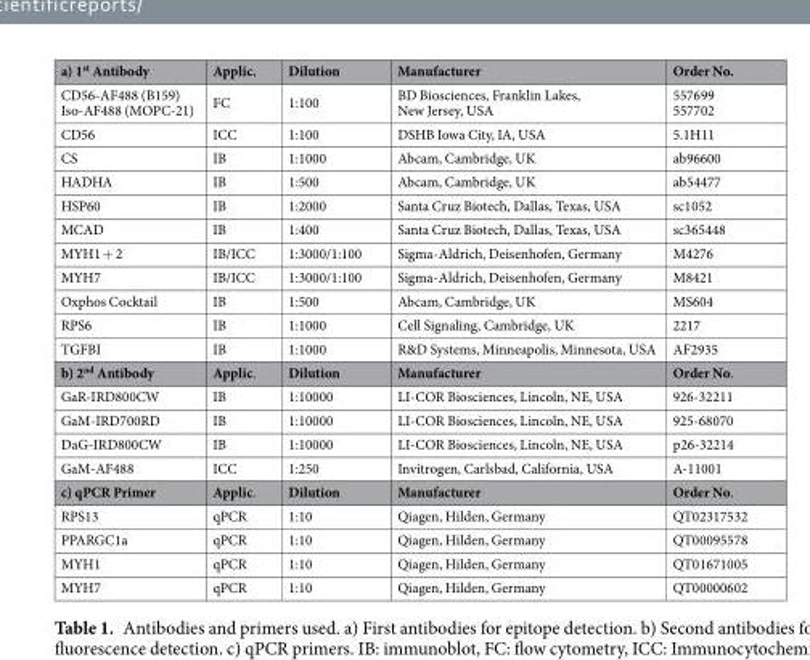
<table><thead><tr><td>a) 1<sup>st</sup> Antibody</td><td>Applic.</td><td>Dilution</td><td>Manufacturer</td><td>Order No.</td></tr></thead><tbody><tr><td>CD56-AF488 (B159) Iso-AF488 (MOPC-21)</td><td>FC</td><td>1:100</td><td>BD Biosciences, Franklin Lakes, New Jersey, USA</td><td>557699 557702</td></tr><tr><td>CD56</td><td>ICC</td><td>1:100</td><td>DSHB Iowa City, IA, USA</td><td>5.1H11</td></tr><tr><td>CS</td><td>IB</td><td>1:1000</td><td>Abcam, Cambridge, UK</td><td>ab96600</td></tr><tr><td>HADHA</td><td>IB</td><td>1:500</td><td>Abcam, Cambridge, UK</td><td>ab54477</td></tr><tr><td>HSP60</td><td>IB</td><td>1:2000</td><td>Santa Cruz Biotech, Dallas, Texas, USA</td><td>sc1052</td></tr><tr><td>MCAD</td><td>IB</td><td>1:400</td><td>Santa Cruz Biotech, Dallas, Texas, USA</td><td>sc365448</td></tr><tr><td>MYH1 + 2</td><td>IB/ICC</td><td>1:3000/1:100</td><td>Sigma-Aldrich, Deisenhofen, Germany</td><td>M4276</td></tr><tr><td>MYH7</td><td>IB/ICC</td><td>1:3000/1:100</td><td>Sigma-Aldrich, Deisenhofen, Germany</td><td>M8421</td></tr><tr><td>Oxphos Cocktail</td><td>IB</td><td>1:500</td><td>Abcam, Cambridge, UK</td><td>MS604</td></tr><tr><td>RPS6</td><td>IB</td><td>1:1000</td><td>Cell Signaling, Cambridge, UK</td><td>2217</td></tr><tr><td>TGFBI</td><td>IB</td><td>1:1000</td><td>R&amp;D Systems, Minneapolis, Minnesota, USA</td><td>AF2935</td></tr><tr><td>b) 2<sup>nd</sup> Antibody</td><td>Applic.</td><td>Dilution</td><td>Manufacturer</td><td>Order No.</td></tr><tr><td>GaR-IRD800CW</td><td>IB</td><td>1:10000</td><td>LI-COR Biosciences, Lincoln, NE, USA</td><td>926-32211</td></tr><tr><td>GaM-IRD700RD</td><td>IB</td><td>1:10000</td><td>LI-COR Biosciences, Lincoln, NE, USA</td><td>925-68070</td></tr><tr><td>DaG-IRD800CW</td><td>IB</td><td>1:10000</td><td>LI-COR Biosciences, Lincoln, NE, USA</td><td>p26-32214</td></tr><tr><td>GaM-AF488</td><td>ICC</td><td>1:250</td><td>Invitrogen, Carlsbad, California, USA</td><td>A-11001</td></tr><tr><td>c) qPCR Primer</td><td>Applic.</td><td>Dilution</td><td>Manufacturer</td><td>Order No.</td></tr><tr><td>RPS13</td><td>qPCR</td><td>1:10</td><td>Qiagen, Hilden, Germany</td><td>QT02317532</td></tr><tr><td>PPARGC1a</td><td>qPCR</td><td>1:10</td><td>Qiagen, Hilden, Germany</td><td>QT00095578</td></tr><tr><td>MYH1</td><td>qPCR</td><td>1:10</td><td>Qiagen, Hilden, Germany</td><td>QT01671005</td></tr><tr><td>MYH7</td><td>qPCR</td><td>1:10</td><td>Qiagen, Hilden, Germany</td><td>QT00000602</td></tr></tbody></table>